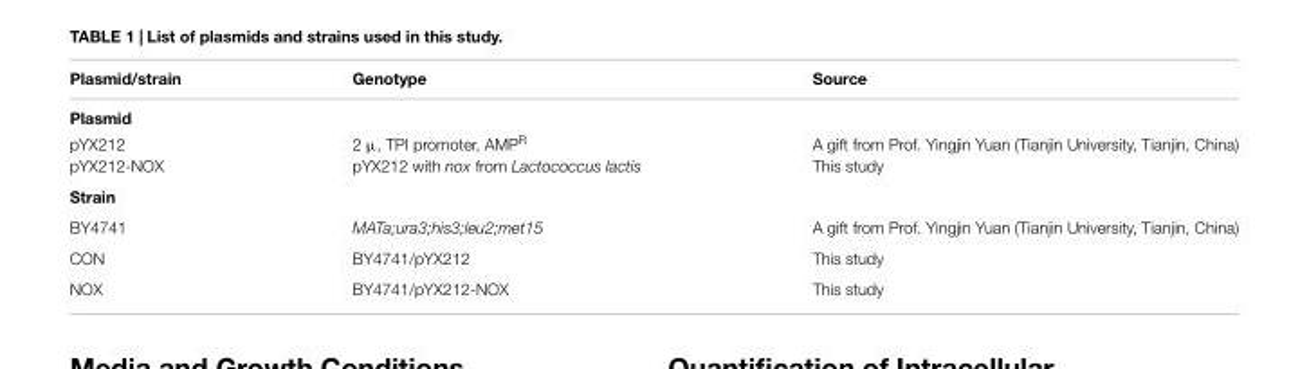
<table><thead><tr><td>Plasmid/strain</td><td>Genotype</td><td>Source</td></tr></thead><tbody><tr><td colspan="3">Plasmid</td></tr><tr><td>pYX212</td><td>2 µ, TPI promoter, AMP<sup>R</sup></td><td>A gift from Prof. Yingjin Yuan (Tianjin University, Tianjin, China)</td></tr><tr><td>pYX212-NOX</td><td>pYX212 with nox from Lactococcus lactis</td><td>This study</td></tr><tr><td colspan="3">Strain</td></tr><tr><td>BY4741</td><td>MATa;ura3;his3;leu2;met15</td><td>A gift from Prof. Yingjin Yuan (Tianjin University, Tianjin, China)</td></tr><tr><td>CON</td><td>BY4741/pYX212</td><td>This study</td></tr><tr><td>NOX</td><td>BY4741/pYX212-NOX</td><td>This study</td></tr></tbody></table>